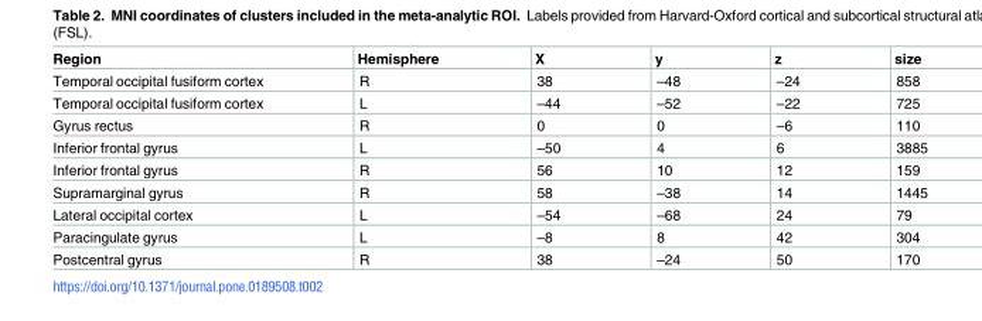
<table><thead><tr><td>Region</td><td>Hemisphere</td><td>X</td><td>y</td><td>z</td><td>size</td></tr></thead><tbody><tr><td>Temporal occipital fusiform cortex</td><td>R</td><td>38</td><td>–48</td><td>–24</td><td>858</td></tr><tr><td>Temporal occipital fusiform cortex</td><td>L</td><td>–44</td><td>–52</td><td>–22</td><td>725</td></tr><tr><td>Gyrus rectus</td><td>R</td><td>0</td><td>0</td><td>–6</td><td>110</td></tr><tr><td>Inferior frontal gyrus</td><td>L</td><td>–50</td><td>4</td><td>6</td><td>3885</td></tr><tr><td>Inferior frontal gyrus</td><td>R</td><td>56</td><td>10</td><td>12</td><td>159</td></tr><tr><td>Supramarginal gyrus</td><td>R</td><td>58</td><td>–38</td><td>14</td><td>1445</td></tr><tr><td>Lateral occipital cortex</td><td>L</td><td>–54</td><td>–68</td><td>24</td><td>79</td></tr><tr><td>Paracingulate gyrus</td><td>L</td><td>–8</td><td>8</td><td>42</td><td>304</td></tr><tr><td>Postcentral gyrus</td><td>R</td><td>38</td><td>–24</td><td>50</td><td>170</td></tr></tbody></table>